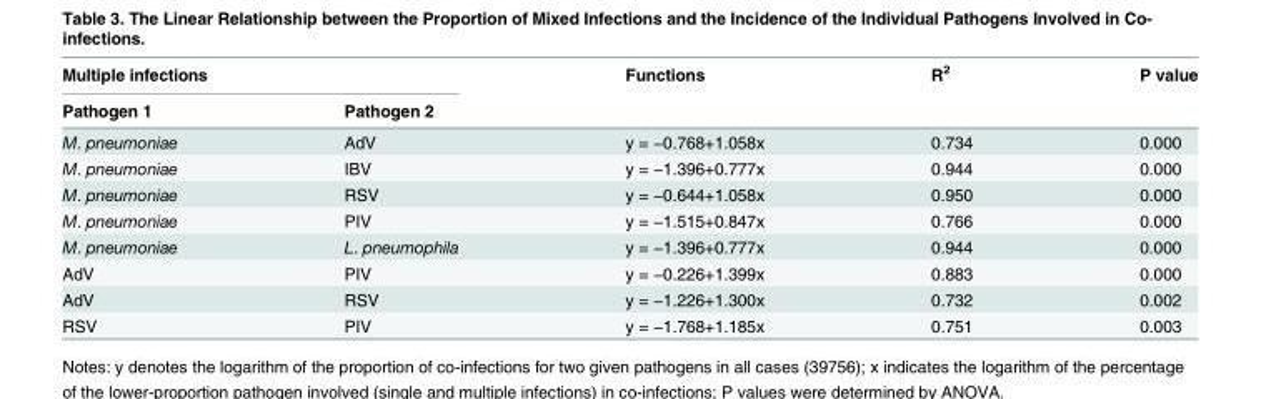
<table><thead><tr><td colspan="2">Multiple infections</td><td rowspan="2">Functions</td><td rowspan="2">R<sup>2</sup></td><td rowspan="2">P value</td></tr><tr><td>Pathogen 1</td><td>Pathogen 2</td></tr></thead><tbody><tr><td>M. pneumoniae</td><td>AdV</td><td>y = −0.768+1.058x</td><td>0.734</td><td>0.000</td></tr><tr><td>M. pneumoniae</td><td>IBV</td><td>y = −1.396+0.777x</td><td>0.944</td><td>0.000</td></tr><tr><td>M. pneumoniae</td><td>RSV</td><td>y = −0.644+1.058x</td><td>0.950</td><td>0.000</td></tr><tr><td>M. pneumoniae</td><td>PIV</td><td>y = −1.515+0.847x</td><td>0.766</td><td>0.000</td></tr><tr><td>M. pneumoniae</td><td>L. pneumophila</td><td>y = −1.396+0.777x</td><td>0.944</td><td>0.000</td></tr><tr><td>AdV</td><td>PIV</td><td>y = −0.226+1.399x</td><td>0.883</td><td>0.000</td></tr><tr><td>AdV</td><td>RSV</td><td>y = −1.226+1.300x</td><td>0.732</td><td>0.002</td></tr><tr><td>RSV</td><td>PIV</td><td>y = −1.768+1.185x</td><td>0.751</td><td>0.003</td></tr></tbody></table>